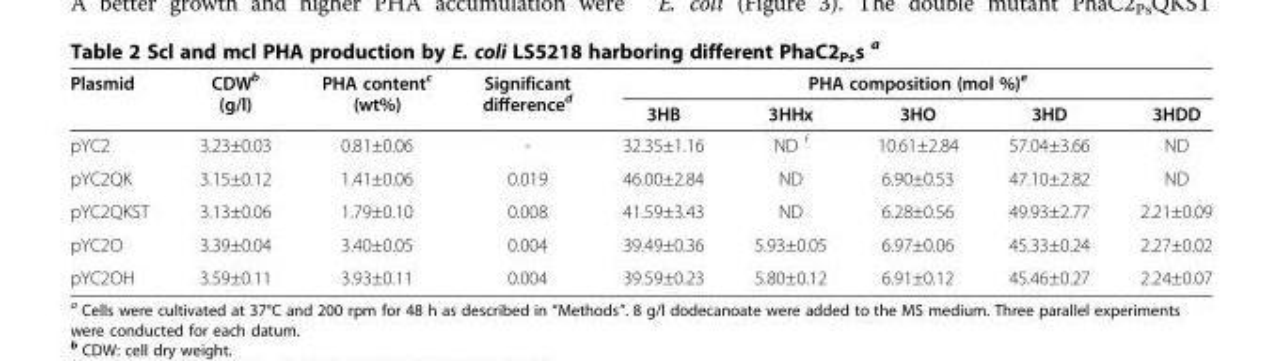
<table><thead><tr><td rowspan="2">Plasmid</td><td rowspan="2">CDW<sup>b</sup> (g/l)</td><td rowspan="2">PHA content<sup>c</sup> (wt%)</td><td rowspan="2">Significant difference<sup>d</sup></td><td colspan="5">PHA composition (mol %)<sup>e</sup></td></tr><tr><td>3HB</td><td>3HHx</td><td>3HO</td><td>3HD</td><td>3HDD</td></tr></thead><tbody><tr><td>pYC2</td><td>3.23±0.03</td><td>0.81±0.06</td><td>-</td><td>32.35±1.16</td><td>ND <sup>f</sup></td><td>10.61±2.84</td><td>57.04±3.66</td><td>ND</td></tr><tr><td>pYC2QK</td><td>3.15±0.12</td><td>1.41±0.06</td><td>0.019</td><td>46.00±2.84</td><td>ND</td><td>6.90±0.53</td><td>47.10±2.82</td><td>ND</td></tr><tr><td>pYC2QKST</td><td>3.13±0.06</td><td>1.79±0.10</td><td>0.008</td><td>41.59±3.43</td><td>ND</td><td>6.28±0.56</td><td>49.93±2.77</td><td>2.21±0.09</td></tr><tr><td>pYC2O</td><td>3.39±0.04</td><td>3.40±0.05</td><td>0.004</td><td>39.49±0.36</td><td>5.93±0.05</td><td>6.97±0.06</td><td>45.33±0.24</td><td>2.27±0.02</td></tr><tr><td>pYC2OH</td><td>3.59±0.11</td><td>3.93±0.11</td><td>0.004</td><td>39.59±0.23</td><td>5.80±0.12</td><td>6.91±0.12</td><td>45.46±0.27</td><td>2.24±0.07</td></tr></tbody></table>